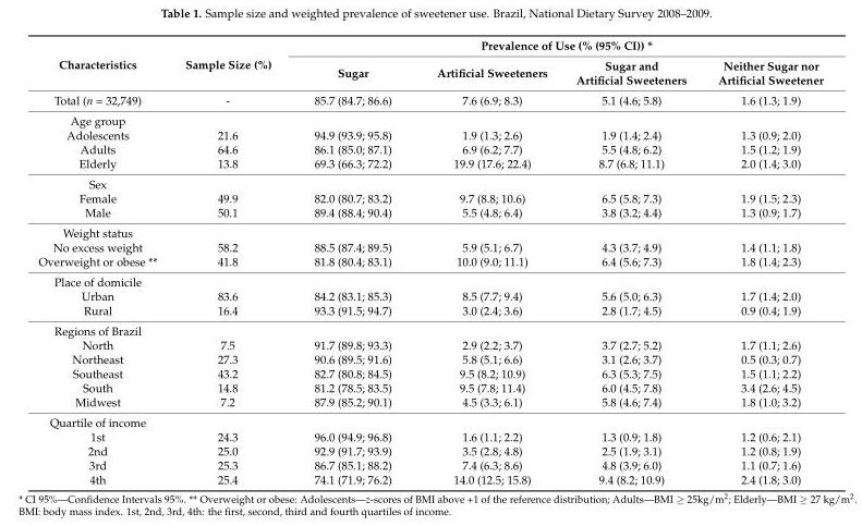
<table><thead><tr><td rowspan="2">Characteristics</td><td rowspan="2">Sample Size (%)</td><td colspan="4">Prevalence of Use (% (95% CI)) *</td></tr><tr><td>Sugar</td><td>Artificial Sweeteners</td><td>Sugar and Artificial Sweeteners</td><td>Neither Sugar nor Artificial Sweetener</td></tr></thead><tbody><tr><td>Total (n = 32,749)</td><td>-</td><td>85.7 (84.7; 86.6)</td><td>7.6 (6.9; 8.3)</td><td>5.1 (4.6; 5.8)</td><td>1.6 (1.3; 1.9)</td></tr><tr><td colspan="6">Age group</td></tr><tr><td>Adolescents</td><td>21.6</td><td>94.9 (93.9; 95.8)</td><td>1.9 (1.3; 2.6)</td><td>1.9 (1.4; 2.4)</td><td>1.3 (0.9; 2.0)</td></tr><tr><td>Adults</td><td>64.6</td><td>86.1 (85.0; 87.1)</td><td>6.9 (6.2; 7.7)</td><td>5.5 (4.8; 6.2)</td><td>1.5 (1.2; 1.9)</td></tr><tr><td>Elderly</td><td>13.8</td><td>69.3 (66.3; 72.2)</td><td>19.9 (17.6; 22.4)</td><td>8.7 (6.8; 11.1)</td><td>2.0 (1.4; 3.0)</td></tr><tr><td colspan="6">Sex</td></tr><tr><td>Female</td><td>49.9</td><td>82.0 (80.7; 83.2)</td><td>9.7 (8.8; 10.6)</td><td>6.5 (5.8; 7.3)</td><td>1.9 (1.5; 2.3)</td></tr><tr><td>Male</td><td>50.1</td><td>89.4 (88.4; 90.4)</td><td>5.5 (4.8; 6.4)</td><td>3.8 (3.2; 4.4)</td><td>1.3 (0.9; 1.7)</td></tr><tr><td colspan="6">Weight status</td></tr><tr><td>No excess weight</td><td>58.2</td><td>88.5 (87.4; 89.5)</td><td>5.9 (5.1; 6.7)</td><td>4.3 (3.7; 4.9)</td><td>1.4 (1.1; 1.8)</td></tr><tr><td>Overweight or obese **</td><td>41.8</td><td>81.8 (80.4; 83.1)</td><td>10.0 (9.0; 11.1)</td><td>6.4 (5.6; 7.3)</td><td>1.8 (1.4; 2.3)</td></tr><tr><td colspan="6">Place of domicile</td></tr><tr><td>Urban</td><td>83.6</td><td>84.2 (83.1; 85.3)</td><td>8.5 (7.7; 9.4)</td><td>5.6 (5.0; 6.3)</td><td>1.7 (1.4; 2.0)</td></tr><tr><td>Rural</td><td>16.4</td><td>93.3 (91.5; 94.7)</td><td>3.0 (2.4; 3.6)</td><td>2.8 (1.7; 4.5)</td><td>0.9 (0.4; 1.9)</td></tr><tr><td colspan="6">Regions of Brazil</td></tr><tr><td>North</td><td>7.5</td><td>91.7 (89.8; 93.3)</td><td>2.9 (2.2; 3.7)</td><td>3.7 (2.7; 5.2)</td><td>1.7 (1.1; 2.6)</td></tr><tr><td>Northeast</td><td>27.3</td><td>90.6 (89.5; 91.6)</td><td>5.8 (5.1; 6.6)</td><td>3.1 (2.6; 3.7)</td><td>0.5 (0.3; 0.7)</td></tr><tr><td>Southeast</td><td>43.2</td><td>82.7 (80.8; 84.5)</td><td>9.5 (8.2; 10.9)</td><td>6.3 (5.3; 7.5)</td><td>1.5 (1.1; 2.2)</td></tr><tr><td>South</td><td>14.8</td><td>81.2 (78.5; 83.5)</td><td>9.5 (7.8; 11.4)</td><td>6.0 (4.5; 7.8)</td><td>3.4 (2.6; 4.5)</td></tr><tr><td>Midwest</td><td>7.2</td><td>87.9 (85.2; 90.1)</td><td>4.5 (3.3; 6.1)</td><td>5.8 (4.6; 7.4)</td><td>1.8 (1.0; 3.2)</td></tr><tr><td colspan="6">Quartile of income</td></tr><tr><td>1st</td><td>24.3</td><td>96.0 (94.9; 96.8)</td><td>1.6 (1.1; 2.2)</td><td>1.3 (0.9; 1.8)</td><td>1.2 (0.6; 2.1)</td></tr><tr><td>2nd</td><td>25.0</td><td>92.9 (91.7; 93.9)</td><td>3.5 (2.8; 4.8)</td><td>2.5 (1.9; 3.1)</td><td>1.2 (0.8; 1.9)</td></tr><tr><td>3rd</td><td>25.3</td><td>86.7 (85.1; 88.2)</td><td>7.4 (6.3; 8.6)</td><td>4.8 (3.9; 6.0)</td><td>1.1 (0.7; 1.6)</td></tr><tr><td>4th</td><td>25.4</td><td>74.1 (71.9; 76.2)</td><td>14.0 (12.5; 15.8)</td><td>9.4 (8.2; 10.9)</td><td>2.4 (1.8; 3.0)</td></tr></tbody></table>